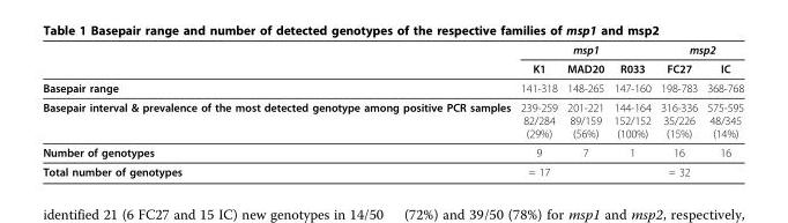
<table><thead><tr><td rowspan="2"></td><td colspan="3">msp1</td><td colspan="2">msp2</td></tr><tr><td>K1</td><td>MAD20</td><td>R033</td><td>FC27</td><td>IC</td></tr></thead><tbody><tr><td>Basepair range</td><td>141-318</td><td>148-265</td><td>147-160</td><td>198-783</td><td>368-768</td></tr><tr><td>Basepair interval &amp; prevalence of the most detected genotype among positive PCR samples</td><td>239-259 82/284 (29%)</td><td>201-221 89/159 (56%)</td><td>144-164 152/152 (100%)</td><td>316-336 35/226 (15%)</td><td>575-595 48/345 (14%)</td></tr><tr><td>Number of genotypes</td><td>9</td><td>7</td><td>1</td><td>16</td><td>16</td></tr><tr><td>Total number of genotypes</td><td>= 17</td><td></td><td></td><td>= 32</td><td></td></tr></tbody></table>